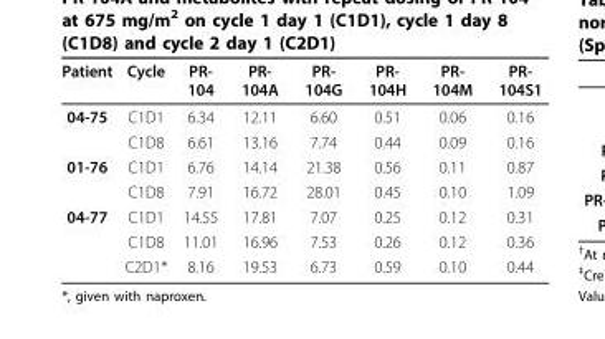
<table><thead><tr><td>Patient</td><td>Cycle</td><td>PR- 104</td><td>PR- 104A</td><td>PR- 104G</td><td>PR- 104H</td><td>PR- 104M</td><td>PR- 104S1</td></tr></thead><tbody><tr><td rowspan="2">04-75</td><td>C1D1</td><td>6.34</td><td>12.11</td><td>6.60</td><td>0.51</td><td>0.06</td><td>0.16</td></tr><tr><td>C1D8</td><td>6.61</td><td>13.16</td><td>7.74</td><td>0.44</td><td>0.09</td><td>0.16</td></tr><tr><td rowspan="2">01-76</td><td>C1D1</td><td>6.76</td><td>14.14</td><td>21.38</td><td>0.56</td><td>0.11</td><td>0.87</td></tr><tr><td>C1D8</td><td>7.91</td><td>16.72</td><td>28.01</td><td>0.45</td><td>0.10</td><td>1.09</td></tr><tr><td rowspan="3">04-77</td><td>C1D1</td><td>14.55</td><td>17.81</td><td>7.07</td><td>0.25</td><td>0.12</td><td>0.31</td></tr><tr><td>C1D8</td><td>11.01</td><td>16.96</td><td>7.53</td><td>0.26</td><td>0.12</td><td>0.36</td></tr><tr><td>C2D1*</td><td>8.16</td><td>19.53</td><td>6.73</td><td>0.59</td><td>0.10</td><td>0.44</td></tr></tbody></table>